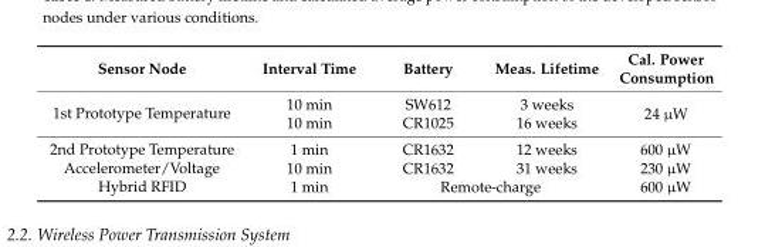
<table><thead><tr><td>Sensor Node</td><td>Interval Time</td><td>Battery</td><td>Meas. Lifetime</td><td>Cal. Power Consumption</td></tr></thead><tbody><tr><td rowspan="2">1st Prototype Temperature</td><td>10 min</td><td>SW612</td><td>3 weeks</td><td rowspan="2">24 µW</td></tr><tr><td>10 min</td><td>CR1025</td><td>16 weeks</td></tr><tr><td rowspan="3">2nd Prototype Temperature Accelerometer/Voltage Hybrid RFID</td><td>1 min</td><td>CR1632</td><td>12 weeks</td><td>600 µW</td></tr><tr><td>10 min</td><td>CR1632</td><td>31 weeks</td><td>230 µW</td></tr><tr><td>1 min</td><td colspan="2">Remote-charge</td><td>600 µW</td></tr></tbody></table>